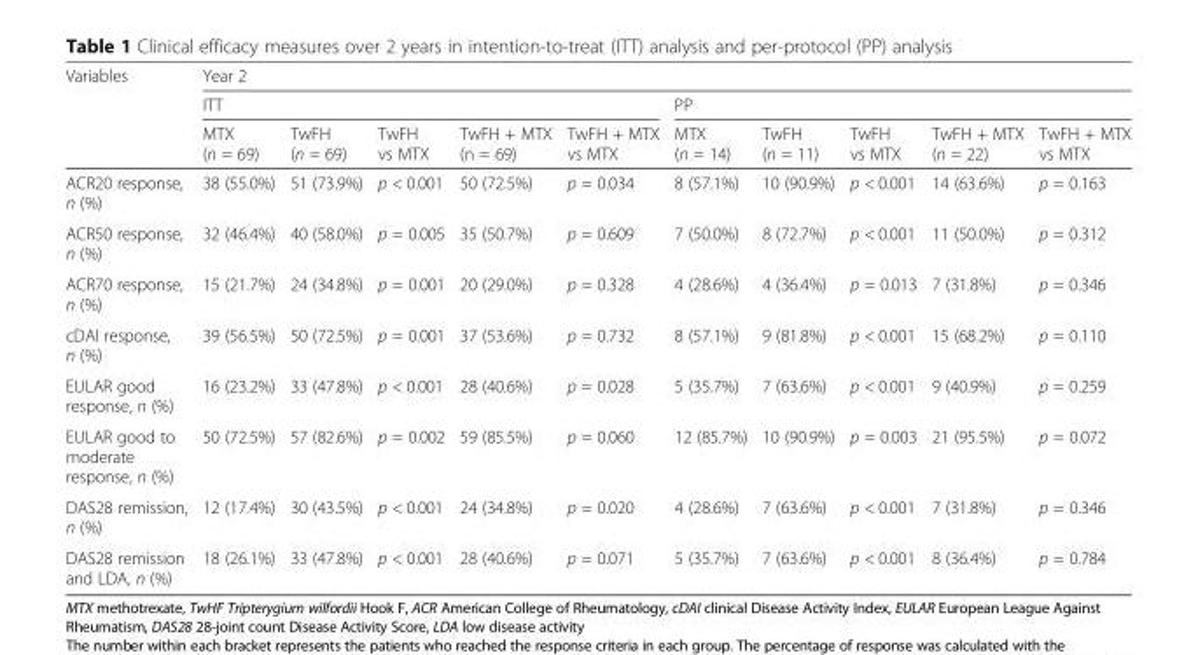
<table><thead><tr><td rowspan="3">Variables</td><td colspan="10">Year 2</td></tr><tr><td colspan="5">ITT</td><td colspan="5">PP</td></tr><tr><td>MTX (n = 69)</td><td>TwFH (n = 69)</td><td>TwFH vs MTX</td><td>TwFH + MTX (n = 69)</td><td>TwFH + MTX vs MTX</td><td>MTX (n = 14)</td><td>TwFH (n = 11)</td><td>TwFH vs MTX</td><td>TwFH + MTX (n = 22)</td><td>TwFH + MTX vs MTX</td></tr></thead><tbody><tr><td>ACR20 response, n (%)</td><td>38 (55.0%)</td><td>51 (73.9%)</td><td>p &lt; 0.001</td><td>50 (72.5%)</td><td>p = 0.034</td><td>8 (57.1%)</td><td>10 (90.9%)</td><td>p &lt; 0.001</td><td>14 (63.6%)</td><td>p = 0.163</td></tr><tr><td>ACR50 response, n (%)</td><td>32 (46.4%)</td><td>40 (58.0%)</td><td>p = 0.005</td><td>35 (50.7%)</td><td>p = 0.609</td><td>7 (50.0%)</td><td>8 (72.7%)</td><td>p &lt; 0.001</td><td>11 (50.0%)</td><td>p = 0.312</td></tr><tr><td>ACR70 response, n (%)</td><td>15 (21.7%)</td><td>24 (34.8%)</td><td>p = 0.001</td><td>20 (29.0%)</td><td>p = 0.328</td><td>4 (28.6%)</td><td>4 (36.4%)</td><td>p = 0.013</td><td>7 (31.8%)</td><td>p = 0.346</td></tr><tr><td>cDAI response, n (%)</td><td>39 (56.5%)</td><td>50 (72.5%)</td><td>p = 0.001</td><td>37 (53.6%)</td><td>p = 0.732</td><td>8 (57.1%)</td><td>9 (81.8%)</td><td>p &lt; 0.001</td><td>15 (68.2%)</td><td>p = 0.110</td></tr><tr><td>EULAR good response, n (%)</td><td>16 (23.2%)</td><td>33 (47.8%)</td><td>p &lt; 0.001</td><td>28 (40.6%)</td><td>p = 0.028</td><td>5 (35.7%)</td><td>7 (63.6%)</td><td>p &lt; 0.001</td><td>9 (40.9%)</td><td>p = 0.259</td></tr><tr><td>EULAR good to moderate response, n (%)</td><td>50 (72.5%)</td><td>57 (82.6%)</td><td>p = 0.002</td><td>59 (85.5%)</td><td>p = 0.060</td><td>12 (85.7%)</td><td>10 (90.9%)</td><td>p = 0.003</td><td>21 (95.5%)</td><td>p = 0.072</td></tr><tr><td>DAS28 remission, n (%)</td><td>12 (17.4%)</td><td>30 (43.5%)</td><td>p &lt; 0.001</td><td>24 (34.8%)</td><td>p = 0.020</td><td>4 (28.6%)</td><td>7 (63.6%)</td><td>p &lt; 0.001</td><td>7 (31.8%)</td><td>p = 0.346</td></tr><tr><td>DAS28 remission and LDA, n (%)</td><td>18 (26.1%)</td><td>33 (47.8%)</td><td>p &lt; 0.001</td><td>28 (40.6%)</td><td>p = 0.071</td><td>5 (35.7%)</td><td>7 (63.6%)</td><td>p &lt; 0.001</td><td>8 (36.4%)</td><td>p = 0.784</td></tr></tbody></table>